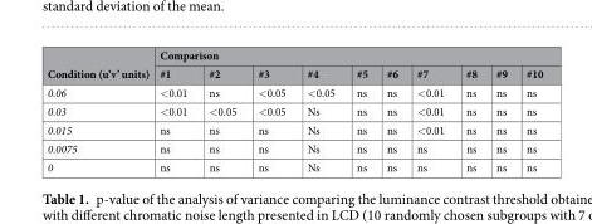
<table><thead><tr><td rowspan="2">Condition (u’v’ units)</td><td colspan="10">Comparison</td></tr><tr><td>#1</td><td>#2</td><td>#3</td><td>#4</td><td>#5</td><td>#6</td><td>#7</td><td>#8</td><td>#9</td><td>#10</td></tr></thead><tbody><tr><td>0.06</td><td>&lt;0.01</td><td>ns</td><td>&lt;0.05</td><td>&lt;0.05</td><td>ns</td><td>ns</td><td>&lt;0.01</td><td>ns</td><td>ns</td><td>ns</td></tr><tr><td>0.03</td><td>&lt;0.01</td><td>&lt;0.05</td><td>&lt;0.05</td><td>Ns</td><td>ns</td><td>ns</td><td>&lt;0.01</td><td>ns</td><td>ns</td><td>ns</td></tr><tr><td>0.015</td><td>ns</td><td>ns</td><td>ns</td><td>Ns</td><td>ns</td><td>ns</td><td>&lt;0.01</td><td>ns</td><td>ns</td><td>ns</td></tr><tr><td>0.0075</td><td>ns</td><td>ns</td><td>ns</td><td>Ns</td><td>ns</td><td>ns</td><td>ns</td><td>ns</td><td>ns</td><td>ns</td></tr><tr><td>0</td><td>ns</td><td>ns</td><td>ns</td><td>Ns</td><td>ns</td><td>ns</td><td>ns</td><td>ns</td><td>ns</td><td>ns</td></tr></tbody></table>